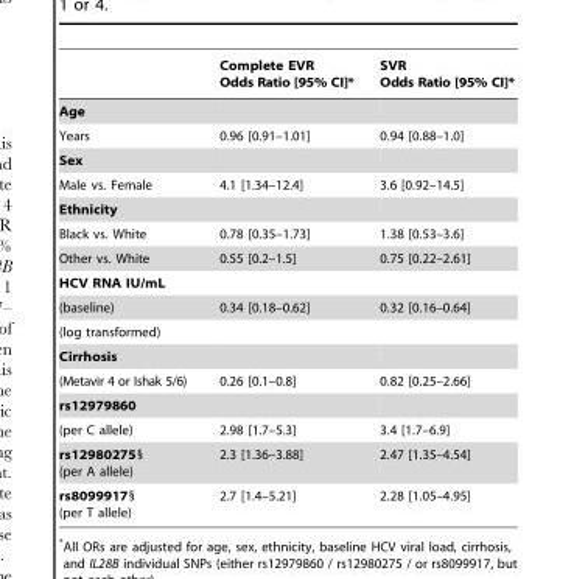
<table><thead><tr><td></td><td>Complete EVR Odds Ratio [95% CI]*</td><td>SVR Odds Ratio [95% CI]*</td></tr></thead><tbody><tr><td colspan="3">Age</td></tr><tr><td>Years</td><td>0.96 [0.91–1.01]</td><td>0.94 [0.88–1.0]</td></tr><tr><td colspan="3">Sex</td></tr><tr><td>Male vs. Female</td><td>4.1 [1.34–12.4]</td><td>3.6 [0.92–14.5]</td></tr><tr><td colspan="3">Ethnicity</td></tr><tr><td>Black vs. White</td><td>0.78 [0.35–1.73]</td><td>1.38 [0.53–3.6]</td></tr><tr><td>Other vs. White</td><td>0.55 [0.2–1.5]</td><td>0.75 [0.22–2.61]</td></tr><tr><td colspan="3">HCV RNA IU/mL</td></tr><tr><td>(baseline)</td><td>0.34 [0.18–0.62]</td><td>0.32 [0.16–0.64]</td></tr><tr><td colspan="3">(log transformed)</td></tr><tr><td colspan="3">Cirrhosis</td></tr><tr><td>(Metavir 4 or Ishak 5/6)</td><td>0.26 [0.1–0.8]</td><td>0.82 [0.25–2.66]</td></tr><tr><td colspan="3">rs12979860</td></tr><tr><td>(per C allele)</td><td>2.98 [1.7–5.3]</td><td>3.4 [1.7–6.9]</td></tr><tr><td>rs12980275§ (per A allele)</td><td>2.3 [1.36–3.88]</td><td>2.47 [1.35–4.54]</td></tr><tr><td>rs8099917§ (per T allele)</td><td>2.7 [1.4–5.21]</td><td>2.28 [1.05–4.95]</td></tr></tbody></table>